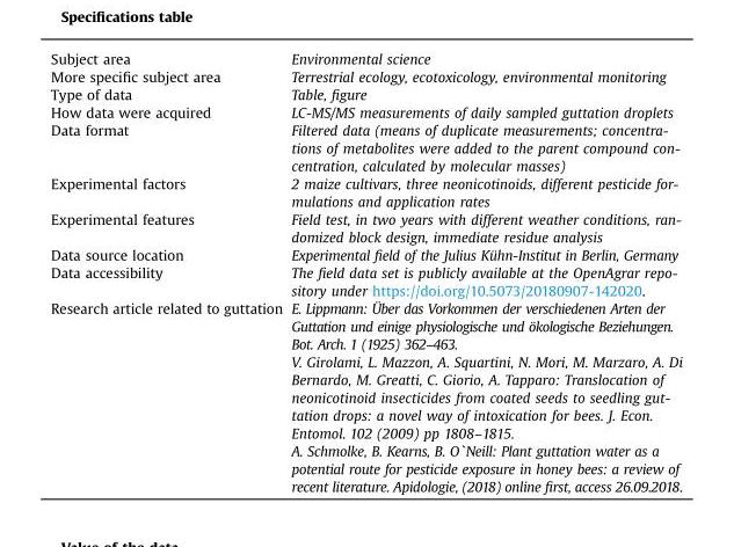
<table><tbody><tr><td>Subject area</td><td>Environmental science</td></tr><tr><td>More specific subject area</td><td>Terrestrial ecology, ecotoxicology, environmental monitoring</td></tr><tr><td>Type of data</td><td>Table, figure</td></tr><tr><td>How data were acquired</td><td>LC-MS/MS measurements of daily sampled guttation droplets</td></tr><tr><td>Data format</td><td>Filtered data (means of duplicate measurements; concentra- tions of metabolites were added to the parent compound con- centration, calculated by molecular masses)</td></tr><tr><td>Experimental factors</td><td>2 maize cultivars, three neonicotinoids, different pesticide for- mulations and application rates</td></tr><tr><td>Experimental features</td><td>Field test, in two years with different weather conditions, ran- domized block design, immediate residue analysis</td></tr><tr><td>Data source location</td><td>Experimental field of the Julius Kühn-Institut in Berlin, Germany</td></tr><tr><td>Data accessibility</td><td>The field data set is publicly available at the OpenAgrar repo- sitory under https://doi.org/10.5073/20180907-142020.</td></tr><tr><td rowspan="3">Research article related to guttation</td><td>E. Lippmann: Über das Vorkommen der verschiedenen Arten der Guttation und einige physiologische und ökologische Beziehungen. Bot. Arch. 1 (1925) 362–463.</td></tr><tr><td>V. Girolami, L. Mazzon, A. Squartini, N. Mori, M. Marzaro, A. Di Bernardo, M. Greatti, C. Giorio, A. Tapparo: Translocation of neonicotinoid insecticides from coated seeds to seedling gut- tation drops: a novel way of intoxication for bees. J. Econ. Entomol. 102 (2009) pp 1808–1815.</td></tr><tr><td>A. Schmolke, B. Kearns, B. O`Neill: Plant guttation water as a potential route for pesticide exposure in honey bees: a review of recent literature. Apidologie, (2018) online first, access 26.09.2018.</td></tr></tbody></table>